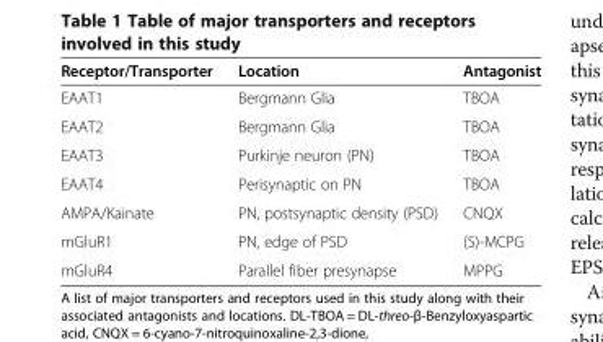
<table><thead><tr><td>Receptor/Transporter</td><td>Location</td><td>Antagonist</td></tr></thead><tbody><tr><td>EAAT1</td><td>Bergmann Glia</td><td>TBOA</td></tr><tr><td>EAAT2</td><td>Bergmann Glia</td><td>TBOA</td></tr><tr><td>EAAT3</td><td>Purkinje neuron (PN)</td><td>TBOA</td></tr><tr><td>EAAT4</td><td>Perisynaptic on PN</td><td>TBOA</td></tr><tr><td>AMPA/Kainate</td><td>PN, postsynaptic density (PSD)</td><td>CNQX</td></tr><tr><td>mGluR1</td><td>PN, edge of PSD</td><td>(S)-MCPG</td></tr><tr><td>mGluR4</td><td>Parallel fiber presynapse</td><td>MPPG</td></tr></tbody></table>